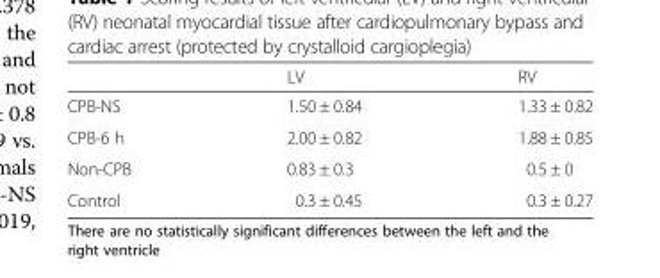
<table><thead><tr><td></td><td>LV</td><td>RV</td></tr></thead><tbody><tr><td>CPB-NS</td><td>1.50 ± 0.84</td><td>1.33 ± 0.82</td></tr><tr><td>CPB-6 h</td><td>2.00 ± 0.82</td><td>1.88 ± 0.85</td></tr><tr><td>Non-CPB</td><td>0.83 ± 0.3</td><td>0.5 ± 0</td></tr><tr><td>Control</td><td>0.3 ± 0.45</td><td>0.3 ± 0.27</td></tr></tbody></table>